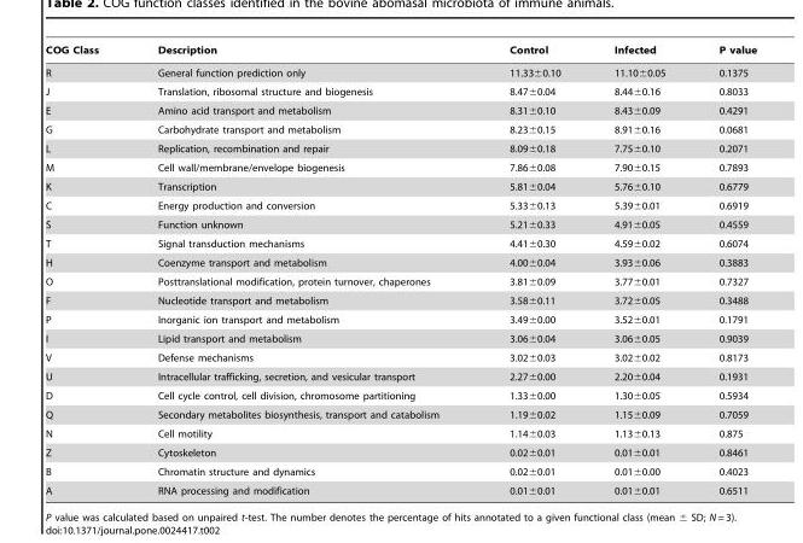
<table><thead><tr><td>COG Class</td><td>Description</td><td>Control</td><td>Infected</td><td>P value</td></tr></thead><tbody><tr><td>R</td><td>General function prediction only</td><td>11.33±0.10</td><td>11.10±0.05</td><td>0.1375</td></tr><tr><td>J</td><td>Translation, ribosomal structure and biogenesis</td><td>8.47±0.04</td><td>8.44±0.16</td><td>0.8033</td></tr><tr><td>E</td><td>Amino acid transport and metabolism</td><td>8.31±0.10</td><td>8.43±0.09</td><td>0.4291</td></tr><tr><td>G</td><td>Carbohydrate transport and metabolism</td><td>8.23±0.15</td><td>8.91±0.16</td><td>0.0681</td></tr><tr><td>L</td><td>Replication, recombination and repair</td><td>8.09±0.18</td><td>7.75±0.10</td><td>0.2071</td></tr><tr><td>M</td><td>Cell wall/membrane/envelope biogenesis</td><td>7.86±0.08</td><td>7.90±0.15</td><td>0.7893</td></tr><tr><td>K</td><td>Transcription</td><td>5.81±0.04</td><td>5.76±0.10</td><td>0.6779</td></tr><tr><td>C</td><td>Energy production and conversion</td><td>5.33±0.13</td><td>5.39±0.01</td><td>0.6919</td></tr><tr><td>S</td><td>Function unknown</td><td>5.21±0.33</td><td>4.91±0.05</td><td>0.4559</td></tr><tr><td>T</td><td>Signal transduction mechanisms</td><td>4.41±0.30</td><td>4.59±0.02</td><td>0.6074</td></tr><tr><td>H</td><td>Coenzyme transport and metabolism</td><td>4.00±0.04</td><td>3.93±0.06</td><td>0.3883</td></tr><tr><td>O</td><td>Posttranslational modification, protein turnover, chaperones</td><td>3.81±0.09</td><td>3.77±0.01</td><td>0.7327</td></tr><tr><td>F</td><td>Nucleotide transport and metabolism</td><td>3.58±0.11</td><td>3.72±0.05</td><td>0.3488</td></tr><tr><td>P</td><td>Inorganic ion transport and metabolism</td><td>3.49±0.00</td><td>3.52±0.01</td><td>0.1791</td></tr><tr><td>I</td><td>Lipid transport and metabolism</td><td>3.06±0.04</td><td>3.06±0.05</td><td>0.9039</td></tr><tr><td>V</td><td>Defense mechanisms</td><td>3.02±0.03</td><td>3.02±0.02</td><td>0.8173</td></tr><tr><td>U</td><td>Intracellular trafficking, secretion, and vesicular transport</td><td>2.27±0.00</td><td>2.20±0.04</td><td>0.1931</td></tr><tr><td>D</td><td>Cell cycle control, cell division, chromosome partitioning</td><td>1.33±0.00</td><td>1.30±0.05</td><td>0.5934</td></tr><tr><td>Q</td><td>Secondary metabolites biosynthesis, transport and catabolism</td><td>1.19±0.02</td><td>1.15±0.09</td><td>0.7059</td></tr><tr><td>N</td><td>Cell motility</td><td>1.14±0.03</td><td>1.13±0.13</td><td>0.875</td></tr><tr><td>Z</td><td>Cytoskeleton</td><td>0.02±0.01</td><td>0.01±0.01</td><td>0.8461</td></tr><tr><td>B</td><td>Chromatin structure and dynamics</td><td>0.02±0.01</td><td>0.01±0.00</td><td>0.4023</td></tr><tr><td>A</td><td>RNA processing and modification</td><td>0.01±0.01</td><td>0.01±0.01</td><td>0.6511</td></tr></tbody></table>